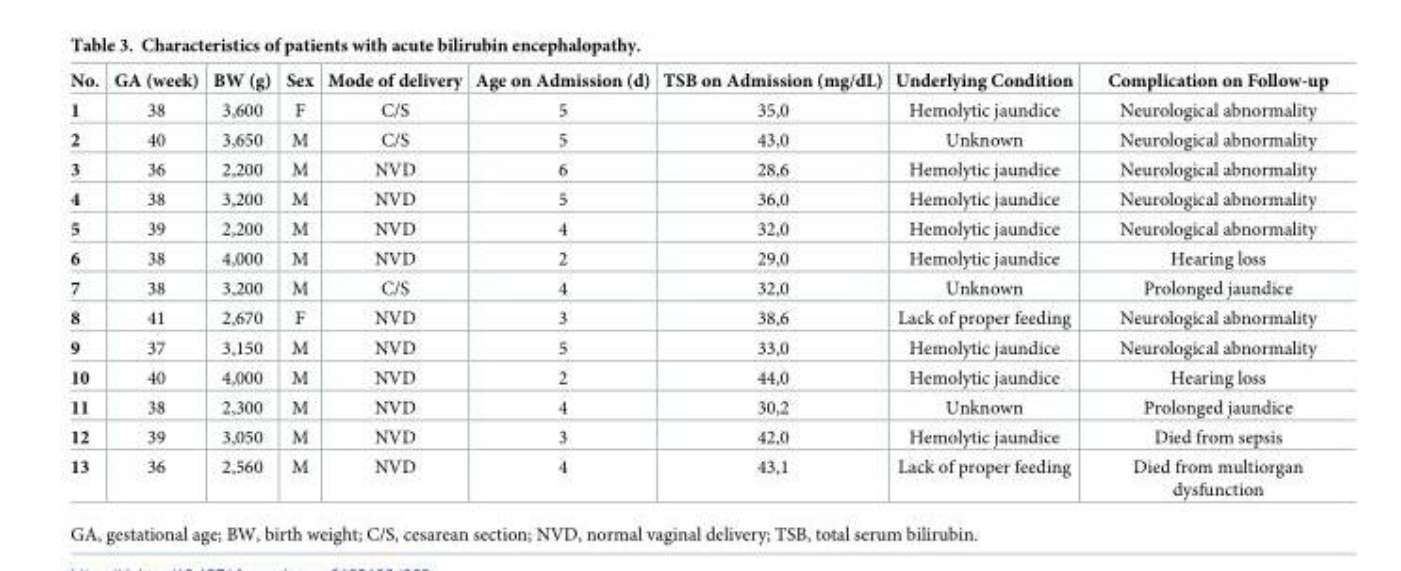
<table><thead><tr><td>No.</td><td>GA (week)</td><td>BW (g)</td><td>Sex</td><td>Mode of delivery</td><td>Age on Admission (d)</td><td>TSB on Admission (mg/dL)</td><td>Underlying Condition</td><td>Complication on Follow-up</td></tr></thead><tbody><tr><td>1</td><td>38</td><td>3,600</td><td>F</td><td>C/S</td><td>5</td><td>35,0</td><td>Hemolytic jaundice</td><td>Neurological abnormality</td></tr><tr><td>2</td><td>40</td><td>3,650</td><td>M</td><td>C/S</td><td>5</td><td>43,0</td><td>Unknown</td><td>Neurological abnormality</td></tr><tr><td>3</td><td>36</td><td>2,200</td><td>M</td><td>NVD</td><td>6</td><td>28,6</td><td>Hemolytic jaundice</td><td>Neurological abnormality</td></tr><tr><td>4</td><td>38</td><td>3,200</td><td>M</td><td>NVD</td><td>5</td><td>36,0</td><td>Hemolytic jaundice</td><td>Neurological abnormality</td></tr><tr><td>5</td><td>39</td><td>2,200</td><td>M</td><td>NVD</td><td>4</td><td>32,0</td><td>Hemolytic jaundice</td><td>Neurological abnormality</td></tr><tr><td>6</td><td>38</td><td>4,000</td><td>M</td><td>NVD</td><td>2</td><td>29,0</td><td>Hemolytic jaundice</td><td>Hearing loss</td></tr><tr><td>7</td><td>38</td><td>3,200</td><td>M</td><td>C/S</td><td>4</td><td>32,0</td><td>Unknown</td><td>Prolonged jaundice</td></tr><tr><td>8</td><td>41</td><td>2,670</td><td>F</td><td>NVD</td><td>3</td><td>38,6</td><td>Lack of proper feeding</td><td>Neurological abnormality</td></tr><tr><td>9</td><td>37</td><td>3,150</td><td>M</td><td>NVD</td><td>5</td><td>33,0</td><td>Hemolytic jaundice</td><td>Neurological abnormality</td></tr><tr><td>10</td><td>40</td><td>4,000</td><td>M</td><td>NVD</td><td>2</td><td>44,0</td><td>Hemolytic jaundice</td><td>Hearing loss</td></tr><tr><td>11</td><td>38</td><td>2,300</td><td>M</td><td>NVD</td><td>4</td><td>30,2</td><td>Unknown</td><td>Prolonged jaundice</td></tr><tr><td>12</td><td>39</td><td>3,050</td><td>M</td><td>NVD</td><td>3</td><td>42,0</td><td>Hemolytic jaundice</td><td>Died from sepsis</td></tr><tr><td>13</td><td>36</td><td>2,560</td><td>M</td><td>NVD</td><td>4</td><td>43,1</td><td>Lack of proper feeding</td><td>Died from multiorgan dysfunction</td></tr></tbody></table>